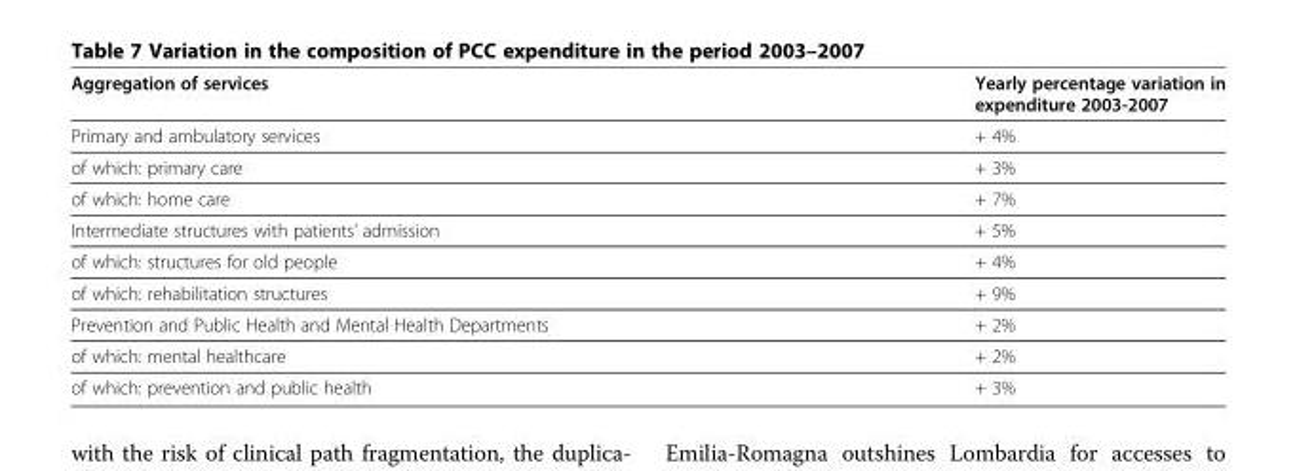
<table><thead><tr><td>Aggregation of services</td><td>Yearly percentage variation in expenditure 2003-2007</td></tr></thead><tbody><tr><td>Primary and ambulatory services</td><td>+ 4%</td></tr><tr><td>of which: primary care</td><td>+ 3%</td></tr><tr><td>of which: home care</td><td>+ 7%</td></tr><tr><td>Intermediate structures with patients’ admission</td><td>+ 5%</td></tr><tr><td>of which: structures for old people</td><td>+ 4%</td></tr><tr><td>of which: rehabilitation structures</td><td>+ 9%</td></tr><tr><td>Prevention and Public Health and Mental Health Departments</td><td>+ 2%</td></tr><tr><td>of which: mental healthcare</td><td>+ 2%</td></tr><tr><td>of which: prevention and public health</td><td>+ 3%</td></tr></tbody></table>